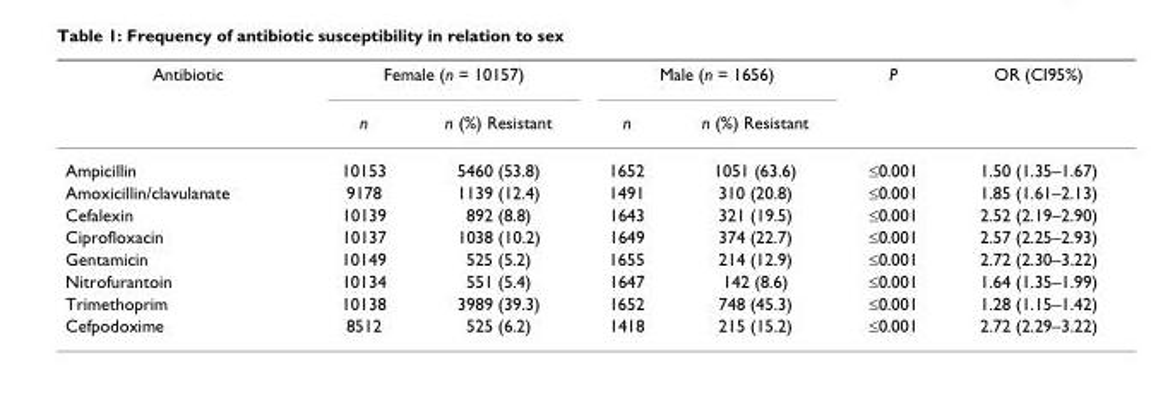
<table><thead><tr><td rowspan="2">Antibiotic</td><td colspan="2">Female (n = 10157)</td><td colspan="2">Male (n = 1656)</td><td rowspan="2">P</td><td rowspan="2">OR (CI95%)</td></tr><tr><td>n</td><td>n (%) Resistant</td><td>n</td><td>n (%) Resistant</td></tr></thead><tbody><tr><td>Ampicillin</td><td>10153</td><td>5460 (53.8)</td><td>1652</td><td>1051 (63.6)</td><td>≤0.001</td><td>1.50 (1.35–1.67)</td></tr><tr><td>Amoxicillin/clavulanate</td><td>9178</td><td>1139 (12.4)</td><td>1491</td><td>310 (20.8)</td><td>≤0.001</td><td>1.85 (1.61–2.13)</td></tr><tr><td>Cefalexin</td><td>10139</td><td>892 (8.8)</td><td>1643</td><td>321 (19.5)</td><td>≤0.001</td><td>2.52 (2.19–2.90)</td></tr><tr><td>Ciprofloxacin</td><td>10137</td><td>1038 (10.2)</td><td>1649</td><td>374 (22.7)</td><td>≤0.001</td><td>2.57 (2.25–2.93)</td></tr><tr><td>Gentamicin</td><td>10149</td><td>525 (5.2)</td><td>1655</td><td>214 (12.9)</td><td>≤0.001</td><td>2.72 (2.30–3.22)</td></tr><tr><td>Nitrofurantoin</td><td>10134</td><td>551 (5.4)</td><td>1647</td><td>142 (8.6)</td><td>≤0.001</td><td>1.64 (1.35–1.99)</td></tr><tr><td>Trimethoprim</td><td>10138</td><td>3989 (39.3)</td><td>1652</td><td>748 (45.3)</td><td>≤0.001</td><td>1.28 (1.15–1.42)</td></tr><tr><td>Cefpodoxime</td><td>8512</td><td>525 (6.2)</td><td>1418</td><td>215 (15.2)</td><td>≤0.001</td><td>2.72 (2.29–3.22)</td></tr></tbody></table>